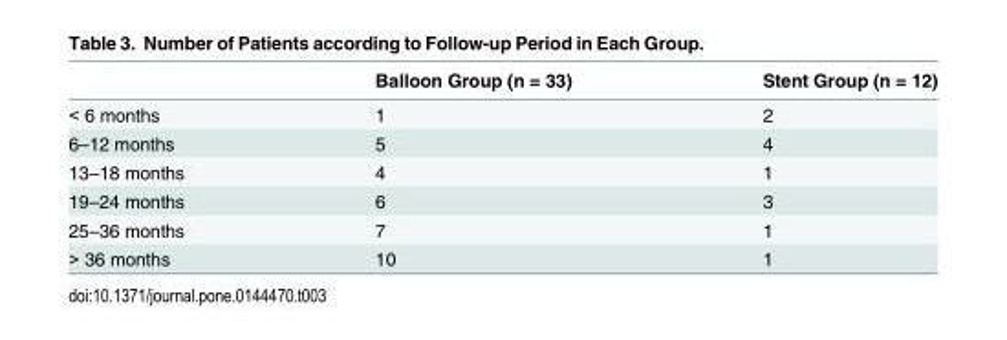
<table><thead><tr><td></td><td>Balloon Group (n = 33)</td><td>Stent Group (n = 12)</td></tr></thead><tbody><tr><td>&lt; 6 months</td><td>1</td><td>2</td></tr><tr><td>6–12 months</td><td>5</td><td>4</td></tr><tr><td>13–18 months</td><td>4</td><td>1</td></tr><tr><td>19–24 months</td><td>6</td><td>3</td></tr><tr><td>25–36 months</td><td>7</td><td>1</td></tr><tr><td>&gt; 36 months</td><td>10</td><td>1</td></tr></tbody></table>